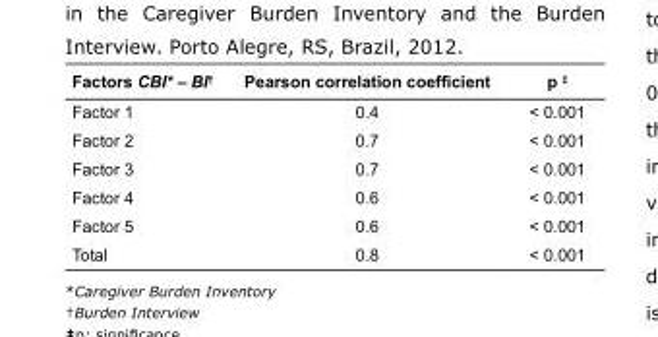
<table><thead><tr><td>Factors CBI* – BI<sup>†</sup></td><td>Pearson correlation coefficient</td><td>p <sup>‡</sup></td></tr></thead><tbody><tr><td>Factor 1</td><td>0.4</td><td>&lt; 0.001</td></tr><tr><td>Factor 2</td><td>0.7</td><td>&lt; 0.001</td></tr><tr><td>Factor 3</td><td>0.7</td><td>&lt; 0.001</td></tr><tr><td>Factor 4</td><td>0.6</td><td>&lt; 0.001</td></tr><tr><td>Factor 5</td><td>0.6</td><td>&lt; 0.001</td></tr><tr><td>Total</td><td>0.8</td><td>&lt; 0.001</td></tr></tbody></table>